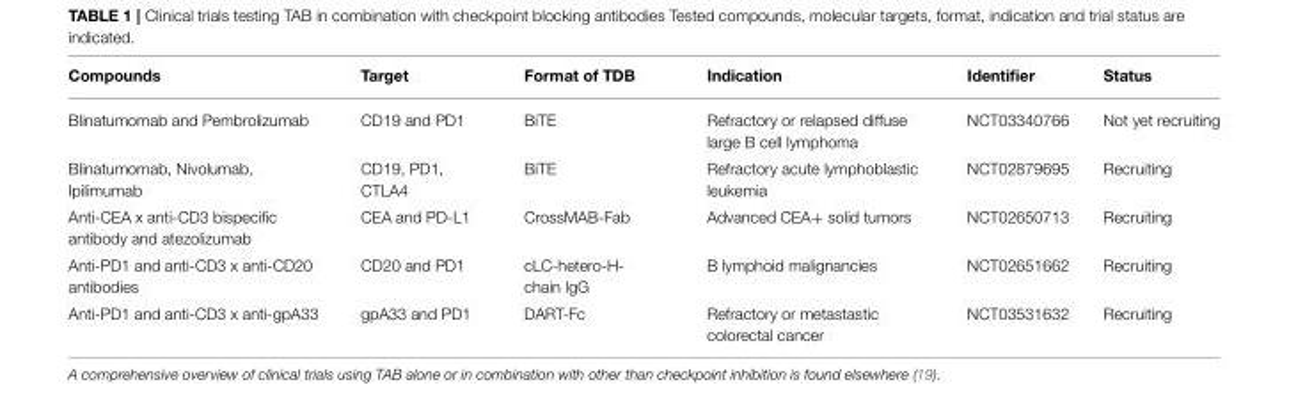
<table><thead><tr><td>Compounds</td><td>Target</td><td>Format of TDB</td><td>Indication</td><td>Identifier</td><td>Status</td></tr></thead><tbody><tr><td>Blinatumomab and Pembrolizumab</td><td>CD19 and PD1</td><td>BiTE</td><td>Refractory or relapsed diffuse large B cell lymphoma</td><td>NCT03340766</td><td>Not yet recruiting</td></tr><tr><td>Blinatumomab, Nivolumab, Ipilimumab</td><td>CD19, PD1, CTLA4</td><td>BiTE</td><td>Refractory acute lymphoblastic leukemia</td><td>NCT02879695</td><td>Recruiting</td></tr><tr><td>Anti-CEA x anti-CD3 bispecific antibody and atezolizumab</td><td>CEA and PD-L1</td><td>CrossMAB-Fab</td><td>Advanced CEA+ solid tumors</td><td>NCT02650713</td><td>Recruiting</td></tr><tr><td>Anti-PD1 and anti-CD3 x anti-CD20 antibodies</td><td>CD20 and PD1</td><td>cLC-hetero-H- chain IgG</td><td>B lymphoid malignancies</td><td>NCT02651662</td><td>Recruiting</td></tr><tr><td>Anti-PD1 and anti-CD3 x anti-gpA33</td><td>gpA33 and PD1</td><td>DART-Fc</td><td>Refractory or metastastic colorectal cancer</td><td>NCT03531632</td><td>Recruiting</td></tr></tbody></table>